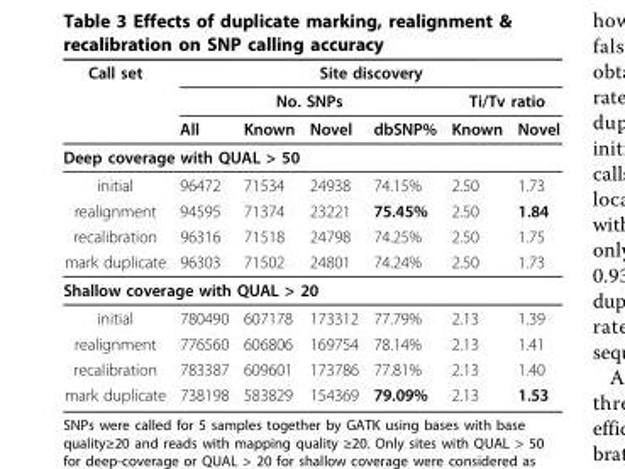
<table><thead><tr><td rowspan="3">Call set</td><td colspan="6">Site discovery</td></tr><tr><td colspan="4">No. SNPs</td><td colspan="2">Ti/Tv ratio</td></tr><tr><td>All</td><td>Known</td><td>Novel</td><td>dbSNP%</td><td>Known</td><td>Novel</td></tr></thead><tbody><tr><td colspan="7">Deep coverage with QUAL &gt; 50</td></tr><tr><td>initial</td><td>96472</td><td>71534</td><td>24938</td><td>74.15%</td><td>2.50</td><td>1.73</td></tr><tr><td>realignment</td><td>94595</td><td>71374</td><td>23221</td><td>75.45%</td><td>2.50</td><td>1.84</td></tr><tr><td>recalibration</td><td>96316</td><td>71518</td><td>24798</td><td>74.25%</td><td>2.50</td><td>1.75</td></tr><tr><td>mark duplicate</td><td>96303</td><td>71502</td><td>24801</td><td>74.24%</td><td>2.50</td><td>1.73</td></tr><tr><td colspan="7">Shallow coverage with QUAL &gt; 20</td></tr><tr><td>initial</td><td>780490</td><td>607178</td><td>173312</td><td>77.79%</td><td>2.13</td><td>1.39</td></tr><tr><td>realignment</td><td>776560</td><td>606806</td><td>169754</td><td>78.14%</td><td>2.13</td><td>1.41</td></tr><tr><td>recalibration</td><td>783387</td><td>609601</td><td>173786</td><td>77.81%</td><td>2.13</td><td>1.40</td></tr><tr><td>mark duplicate</td><td>738198</td><td>583829</td><td>154369</td><td>79.09%</td><td>2.13</td><td>1.53</td></tr></tbody></table>